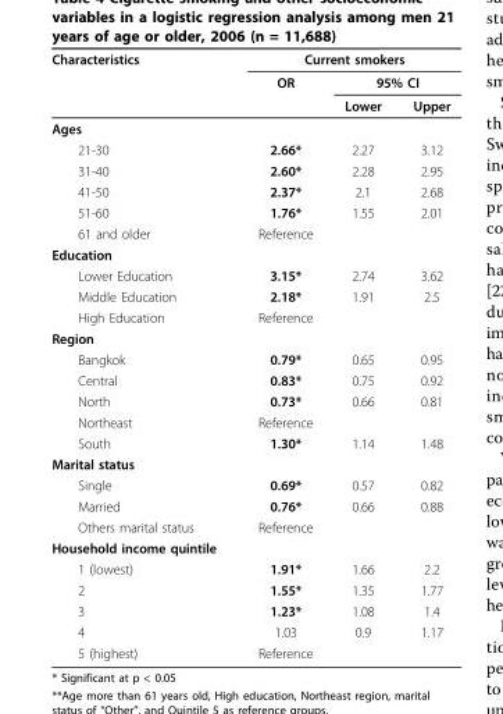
<table><thead><tr><td rowspan="3">Characteristics</td><td colspan="3">Current smokers</td></tr><tr><td rowspan="2">OR</td><td colspan="2">95% CI</td></tr><tr><td>Lower</td><td>Upper</td></tr></thead><tbody><tr><td colspan="4">Ages</td></tr><tr><td>21-30</td><td>2.66*</td><td>2.27</td><td>3.12</td></tr><tr><td>31-40</td><td>2.60*</td><td>2.28</td><td>2.95</td></tr><tr><td>41-50</td><td>2.37*</td><td>2.1</td><td>2.68</td></tr><tr><td>51-60</td><td>1.76*</td><td>1.55</td><td>2.01</td></tr><tr><td>61 and older</td><td>Reference</td><td></td><td></td></tr><tr><td colspan="4">Education</td></tr><tr><td>Lower Education</td><td>3.15*</td><td>2.74</td><td>3.62</td></tr><tr><td>Middle Education</td><td>2.18*</td><td>1.91</td><td>2.5</td></tr><tr><td>High Education</td><td>Reference</td><td></td><td></td></tr><tr><td colspan="4">Region</td></tr><tr><td>Bangkok</td><td>0.79*</td><td>0.65</td><td>0.95</td></tr><tr><td>Central</td><td>0.83*</td><td>0.75</td><td>0.92</td></tr><tr><td>North</td><td>0.73*</td><td>0.66</td><td>0.81</td></tr><tr><td>Northeast</td><td>Reference</td><td></td><td></td></tr><tr><td>South</td><td>1.30*</td><td>1.14</td><td>1.48</td></tr><tr><td colspan="4">Marital status</td></tr><tr><td>Single</td><td>0.69*</td><td>0.57</td><td>0.82</td></tr><tr><td>Married</td><td>0.76*</td><td>0.66</td><td>0.88</td></tr><tr><td>Others marital status</td><td>Reference</td><td></td><td></td></tr><tr><td colspan="4">Household income quintile</td></tr><tr><td>1 (lowest)</td><td>1.91*</td><td>1.66</td><td>2.2</td></tr><tr><td>2</td><td>1.55*</td><td>1.35</td><td>1.77</td></tr><tr><td>3</td><td>1.23*</td><td>1.08</td><td>1.4</td></tr><tr><td>4</td><td>1.03</td><td>0.9</td><td>1.17</td></tr><tr><td>5 (highest)</td><td>Reference</td><td></td><td></td></tr></tbody></table>